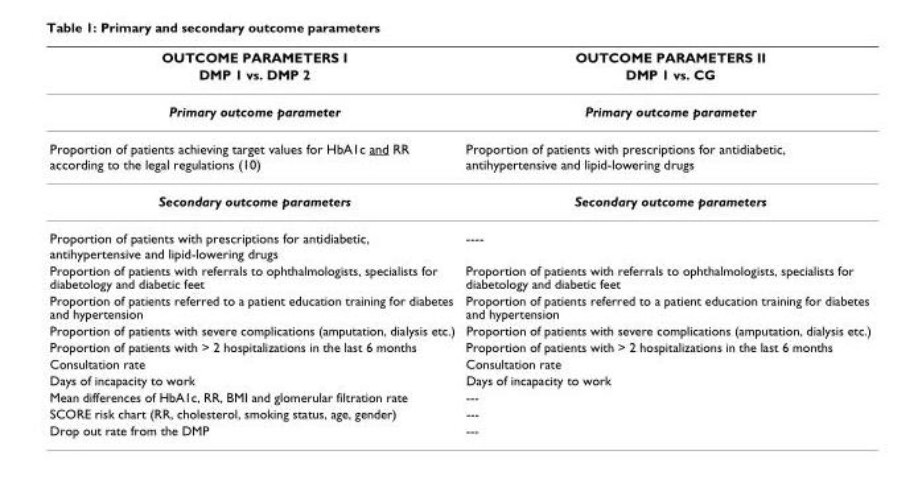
<table><thead><tr><td rowspan="2">OUTCOME PARAMETERS I DMP 1 vs. DMP 2</td><td rowspan="2">OUTCOME PARAMETERS II DMP 1 vs. CG</td></tr><tr></tr></thead><tbody><tr><td>Primary outcome parameter</td><td>Primary outcome parameter</td></tr><tr><td>Proportion of patients achieving target values for HbA1c and RR according to the legal regulations (10)</td><td>Proportion of patients with prescriptions for antidiabetic, antihypertensive and lipid-lowering drugs</td></tr><tr><td>Secondary outcome parameters</td><td>Secondary outcome parameters</td></tr><tr><td>Proportion of patients with prescriptions for antidiabetic, antihypertensive and lipid-lowering drugs</td><td>----</td></tr><tr><td>Proportion of patients with referrals to ophthalmologists, specialists for diabetology and diabetic feet</td><td>Proportion of patients with referrals to ophthalmologists, specialists for diabetology and diabetic feet</td></tr><tr><td>Proportion of patients referred to a patient education training for diabetes and hypertension</td><td>Proportion of patients referred to a patient education training for diabetes and hypertension</td></tr><tr><td>Proportion of patients with severe complications (amputation, dialysis etc.)</td><td>Proportion of patients with severe complications (amputation, dialysis etc.)</td></tr><tr><td>Proportion of patients with &gt; 2 hospitalizations in the last 6 months</td><td>Proportion of patients with &gt; 2 hospitalizations in the last 6 months</td></tr><tr><td>Consultation rate</td><td>Consultation rate</td></tr><tr><td>Days of incapacity to work</td><td>Days of incapacity to work</td></tr><tr><td>Mean differences of HbA1c, RR, BMI and glomerular filtration rate</td><td>---</td></tr><tr><td>SCORE risk chart (RR, cholesterol, smoking status, age, gender)</td><td>---</td></tr><tr><td>Drop out rate from the DMP</td><td>---</td></tr></tbody></table>